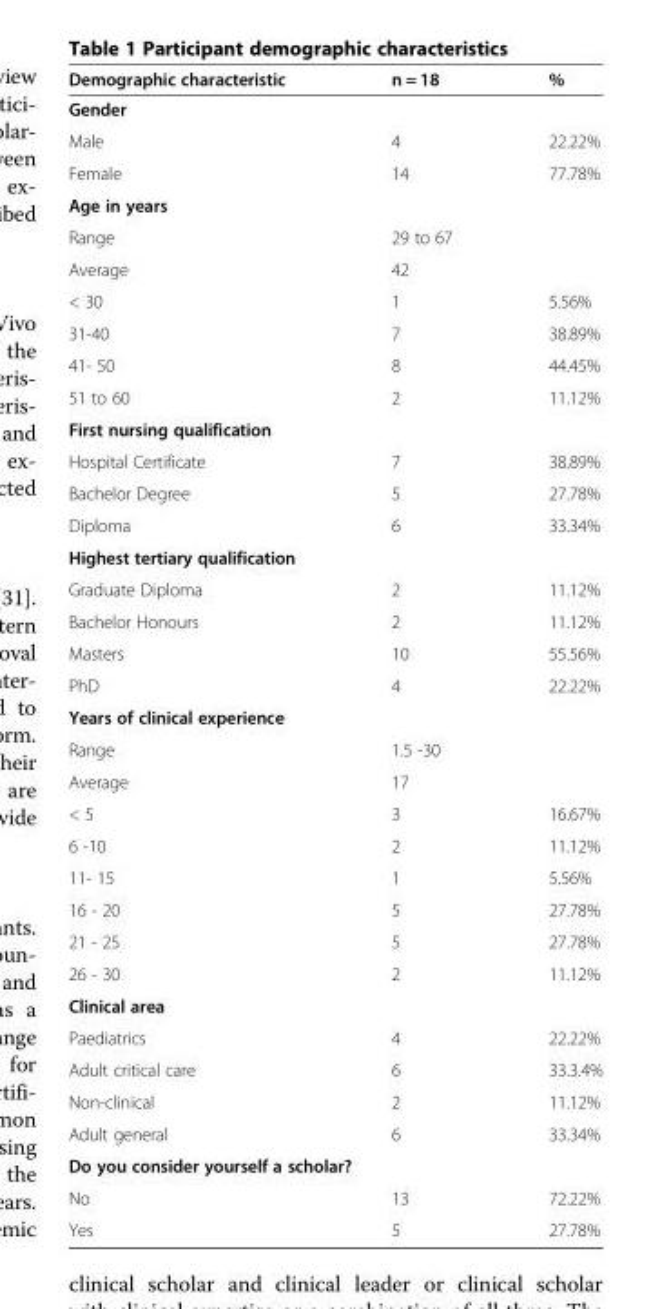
<table><thead><tr><td>Demographic characteristic</td><td>n = 18</td><td>%</td></tr></thead><tbody><tr><td colspan="3">Gender</td></tr><tr><td>Male</td><td>4</td><td>22.22%</td></tr><tr><td>Female</td><td>14</td><td>77.78%</td></tr><tr><td colspan="3">Age in years</td></tr><tr><td>Range</td><td>29 to 67</td><td></td></tr><tr><td>Average</td><td>42</td><td></td></tr><tr><td>&lt; 30</td><td>1</td><td>5.56%</td></tr><tr><td>31-40</td><td>7</td><td>38.89%</td></tr><tr><td>41- 50</td><td>8</td><td>44.45%</td></tr><tr><td>51 to 60</td><td>2</td><td>11.12%</td></tr><tr><td colspan="3">First nursing qualification</td></tr><tr><td>Hospital Certificate</td><td>7</td><td>38.89%</td></tr><tr><td>Bachelor Degree</td><td>5</td><td>27.78%</td></tr><tr><td>Diploma</td><td>6</td><td>33.34%</td></tr><tr><td colspan="3">Highest tertiary qualification</td></tr><tr><td>Graduate Diploma</td><td>2</td><td>11.12%</td></tr><tr><td>Bachelor Honours</td><td>2</td><td>11.12%</td></tr><tr><td>Masters</td><td>10</td><td>55.56%</td></tr><tr><td>PhD</td><td>4</td><td>22.22%</td></tr><tr><td colspan="3">Years of clinical experience</td></tr><tr><td>Range</td><td>1.5 -30</td><td></td></tr><tr><td>Average</td><td>17</td><td></td></tr><tr><td>&lt; 5</td><td>3</td><td>16.67%</td></tr><tr><td>6 -10</td><td>2</td><td>11.12%</td></tr><tr><td>11- 15</td><td>1</td><td>5.56%</td></tr><tr><td>16 - 20</td><td>5</td><td>27.78%</td></tr><tr><td>21 - 25</td><td>5</td><td>27.78%</td></tr><tr><td>26 - 30</td><td>2</td><td>11.12%</td></tr><tr><td colspan="3">Clinical area</td></tr><tr><td>Paediatrics</td><td>4</td><td>22.22%</td></tr><tr><td>Adult critical care</td><td>6</td><td>33.3.4%</td></tr><tr><td>Non-clinical</td><td>2</td><td>11.12%</td></tr><tr><td>Adult general</td><td>6</td><td>33.34%</td></tr><tr><td colspan="3">Do you consider yourself a scholar?</td></tr><tr><td>No</td><td>13</td><td>72.22%</td></tr><tr><td>Yes</td><td>5</td><td>27.78%</td></tr></tbody></table>